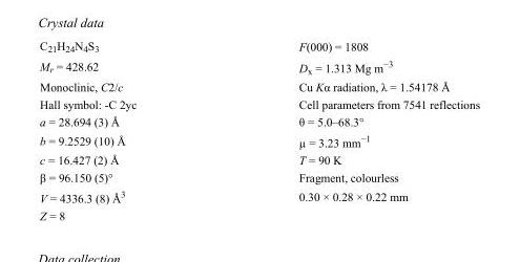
<table><tbody><tr><td>C<sub>21</sub>H<sub>24</sub>N<sub>4</sub>S<sub>3</sub></td><td>F(000) = 1808</td></tr><tr><td>M<sub>r</sub> = 428.62</td><td>D<sub>x</sub> = 1.313 Mg m<sup>−3</sup></td></tr><tr><td>Monoclinic, C2/c</td><td>Cu Kα radiation, λ = 1.54178 Å</td></tr><tr><td>Hall symbol: -C 2yc</td><td>Cell parameters from 7541 reflections</td></tr><tr><td>a = 28.694 (3) Å</td><td>θ = 5.0–68.3°</td></tr><tr><td>b = 9.2529 (10) Å</td><td>µ = 3.23 mm<sup>−1</sup></td></tr><tr><td>c = 16.427 (2) Å</td><td>T = 90 K</td></tr><tr><td>β = 96.150 (5)°</td><td>Fragment, colourless</td></tr><tr><td>V = 4336.3 (8) Å<sup>3</sup></td><td>0.30 × 0.28 × 0.22 mm</td></tr><tr><td>Z = 8</td><td></td></tr></tbody></table>